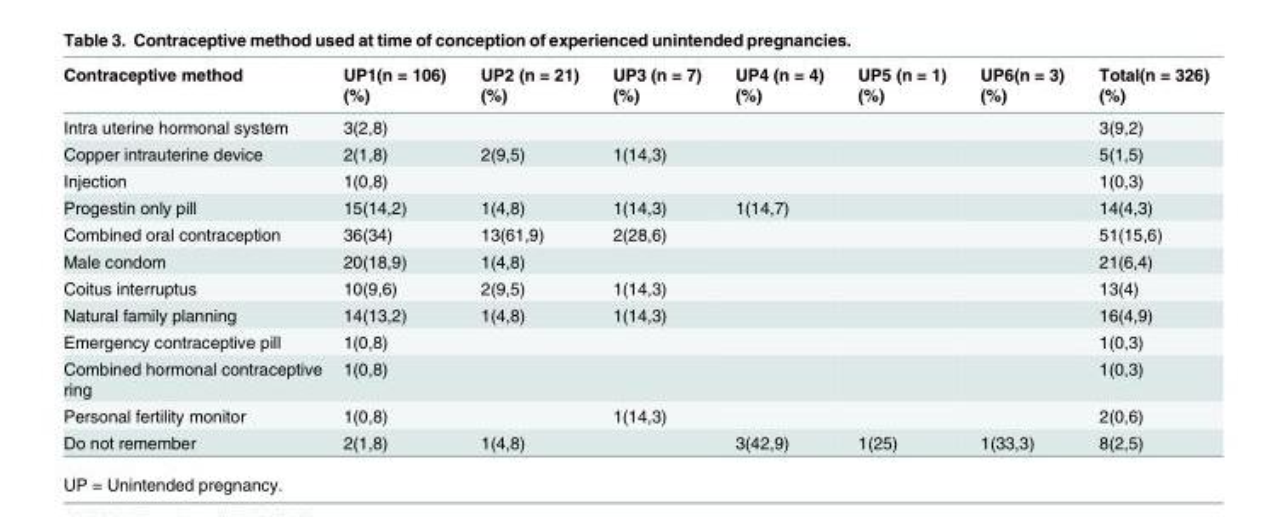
<table><thead><tr><td>Contraceptive method</td><td>UP1(n = 106) (%)</td><td>UP2 (n = 21) (%)</td><td>UP3 (n = 7) (%)</td><td>UP4 (n = 4) (%)</td><td>UP5 (n = 1) (%)</td><td>UP6(n = 3) (%)</td><td>Total(n = 326) (%)</td></tr></thead><tbody><tr><td>Intra uterine hormonal system</td><td>3(2,8)</td><td></td><td></td><td></td><td></td><td></td><td>3(9,2)</td></tr><tr><td>Copper intrauterine device</td><td>2(1,8)</td><td>2(9,5)</td><td>1(14,3)</td><td></td><td></td><td></td><td>5(1,5)</td></tr><tr><td>Injection</td><td>1(0,8)</td><td></td><td></td><td></td><td></td><td></td><td>1(0,3)</td></tr><tr><td>Progestin only pill</td><td>15(14,2)</td><td>1(4,8)</td><td>1(14,3)</td><td>1(14,7)</td><td></td><td></td><td>14(4,3)</td></tr><tr><td>Combined oral contraception</td><td>36(34)</td><td>13(61,9)</td><td>2(28,6)</td><td></td><td></td><td></td><td>51(15,6)</td></tr><tr><td>Male condom</td><td>20(18,9)</td><td>1(4,8)</td><td></td><td></td><td></td><td></td><td>21(6,4)</td></tr><tr><td>Coitus interruptus</td><td>10(9,6)</td><td>2(9,5)</td><td>1(14,3)</td><td></td><td></td><td></td><td>13(4)</td></tr><tr><td>Natural family planning</td><td>14(13,2)</td><td>1(4,8)</td><td>1(14,3)</td><td></td><td></td><td></td><td>16(4,9)</td></tr><tr><td>Emergency contraceptive pill</td><td>1(0,8)</td><td></td><td></td><td></td><td></td><td></td><td>1(0,3)</td></tr><tr><td>Combined hormonal contraceptive ring</td><td>1(0,8)</td><td></td><td></td><td></td><td></td><td></td><td>1(0,3)</td></tr><tr><td>Personal fertility monitor</td><td>1(0,8)</td><td></td><td>1(14,3)</td><td></td><td></td><td></td><td>2(0,6)</td></tr><tr><td>Do not remember</td><td>2(1,8)</td><td>1(4,8)</td><td></td><td>3(42,9)</td><td>1(25)</td><td>1(33,3)</td><td>8(2,5)</td></tr></tbody></table>